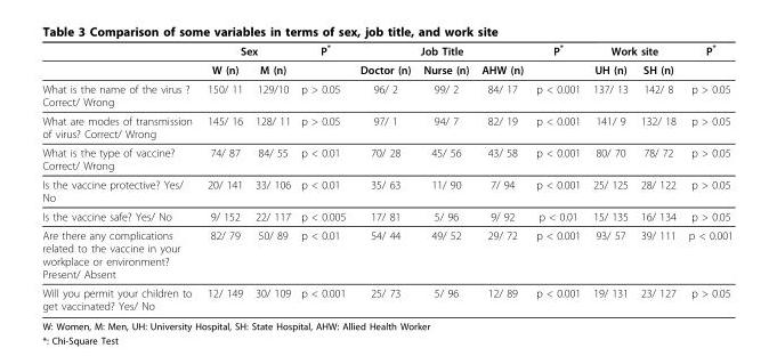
<table><thead><tr><td rowspan="2"></td><td colspan="2">Sex</td><td rowspan="2">P*</td><td colspan="3">Job Title</td><td rowspan="2">P*</td><td colspan="2">Work site</td><td rowspan="2">P*</td></tr><tr><td>W (n)</td><td>M (n)</td><td>Doctor (n)</td><td>Nurse (n)</td><td>AHW (n)</td><td>UH (n)</td><td>SH (n)</td></tr></thead><tbody><tr><td>What is the name of the virus ? Correct/ Wrong</td><td>150/ 11</td><td>129/10</td><td>p &gt; 0.05</td><td>96/ 2</td><td>99/ 2</td><td>84/ 17</td><td>p &lt; 0.001</td><td>137/ 13</td><td>142/ 8</td><td>p &gt; 0.05</td></tr><tr><td>What are modes of transmission of virus? Correct/ Wrong</td><td>145/ 16</td><td>128/ 11</td><td>p &gt; 0.05</td><td>97/ 1</td><td>94/ 7</td><td>82/ 19</td><td>p &lt; 0.001</td><td>141/ 9</td><td>132/ 18</td><td>p &gt; 0.05</td></tr><tr><td>What is the type of vaccine? Correct/ Wrong</td><td>74/ 87</td><td>84/ 55</td><td>p &lt; 0.01</td><td>70/ 28</td><td>45/ 56</td><td>43/ 58</td><td>p &lt; 0.001</td><td>80/ 70</td><td>78/ 72</td><td>p &gt; 0.05</td></tr><tr><td>Is the vaccine protective? Yes/ No</td><td>20/ 141</td><td>33/ 106</td><td>p &lt; 0.01</td><td>35/ 63</td><td>11/ 90</td><td>7/ 94</td><td>p &lt; 0.001</td><td>25/ 125</td><td>28/ 122</td><td>p &gt; 0.05</td></tr><tr><td>Is the vaccine safe? Yes/ No</td><td>9/ 152</td><td>22/ 117</td><td>p &lt; 0.005</td><td>17/ 81</td><td>5/ 96</td><td>9/ 92</td><td>p &lt; 0.01</td><td>15/ 135</td><td>16/ 134</td><td>p &gt; 0.05</td></tr><tr><td>Are there any complications related to the vaccine in your workplace or environment? Present/ Absent</td><td>82/ 79</td><td>50/ 89</td><td>p &lt; 0.01</td><td>54/ 44</td><td>49/ 52</td><td>29/ 72</td><td>p &lt; 0.001</td><td>93/ 57</td><td>39/ 111</td><td>p &lt; 0.001</td></tr><tr><td>Will you permit your children to get vaccinated? Yes/ No</td><td>12/ 149</td><td>30/ 109</td><td>p &lt; 0.001</td><td>25/ 73</td><td>5/ 96</td><td>12/ 89</td><td>p &lt; 0.001</td><td>19/ 131</td><td>23/ 127</td><td>p &gt; 0.05</td></tr></tbody></table>